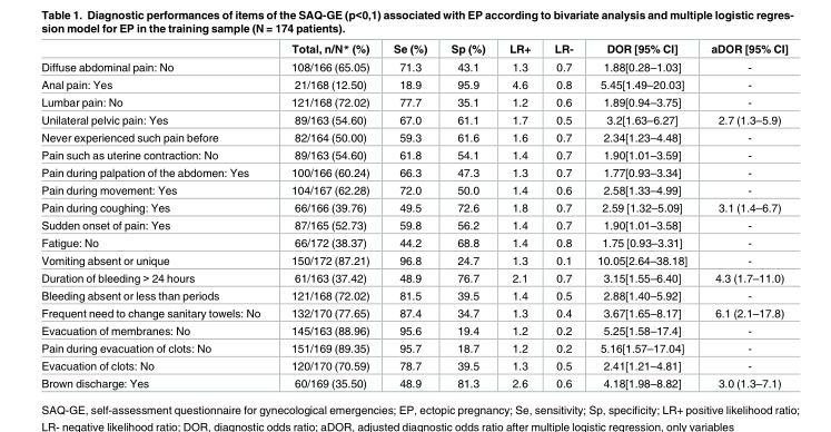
<table><thead><tr><td></td><td>Total, n/N* (%)</td><td>Se (%)</td><td>Sp (%)</td><td>LR+</td><td>LR-</td><td>DOR [95% CI]</td><td>aDOR [95% CI]</td></tr></thead><tbody><tr><td>Diffuse abdominal pain: No</td><td>108/166 (65.05)</td><td>71.3</td><td>43.1</td><td>1.3</td><td>0.7</td><td>1.88[0.28–1.03]</td><td>-</td></tr><tr><td>Anal pain: Yes</td><td>21/168 (12.50)</td><td>18.9</td><td>95.9</td><td>4.6</td><td>0.8</td><td>5.45[1.49–20.03]</td><td>-</td></tr><tr><td>Lumbar pain: No</td><td>121/168 (72.02)</td><td>77.7</td><td>35.1</td><td>1.2</td><td>0.6</td><td>1.89[0.94–3.75]</td><td>-</td></tr><tr><td>Unilateral pelvic pain: Yes</td><td>89/163 (54.60)</td><td>67.0</td><td>61.1</td><td>1.7</td><td>0.5</td><td>3.2[1.63–6.27]</td><td>2.7 (1.3–5.9)</td></tr><tr><td>Never experienced such pain before</td><td>82/164 (50.00)</td><td>59.3</td><td>61.6</td><td>1.6</td><td>0.7</td><td>2.34[1.23–4.48]</td><td>-</td></tr><tr><td>Pain such as uterine contraction: No</td><td>89/163 (54.60)</td><td>61.8</td><td>54.1</td><td>1.4</td><td>0.7</td><td>1.90[1.01–3.59]</td><td>-</td></tr><tr><td>Pain during palpation of the abdomen: Yes</td><td>100/166 (60.24)</td><td>66.3</td><td>47.3</td><td>1.3</td><td>0.7</td><td>1.77[0.93–3.34]</td><td>-</td></tr><tr><td>Pain during movement: Yes</td><td>104/167 (62.28)</td><td>72.0</td><td>50.0</td><td>1.4</td><td>0.6</td><td>2.58[1.33–4.99]</td><td>-</td></tr><tr><td>Pain during coughing: Yes</td><td>66/166 (39.76)</td><td>49.5</td><td>72.6</td><td>1.8</td><td>0.7</td><td>2.59 [1.32–5.09]</td><td>3.1 (1.4–6.7)</td></tr><tr><td>Sudden onset of pain: Yes</td><td>87/165 (52.73)</td><td>59.8</td><td>56.2</td><td>1.4</td><td>0.7</td><td>1.90[1.01–3.58]</td><td>-</td></tr><tr><td>Fatigue: No</td><td>66/172 (38.37)</td><td>44.2</td><td>68.8</td><td>1.4</td><td>0.8</td><td>1.75 [0.93–3.31]</td><td>-</td></tr><tr><td>Vomiting absent or unique</td><td>150/172 (87.21)</td><td>96.8</td><td>24.7</td><td>1.3</td><td>0.1</td><td>10.05[2.64–38.18]</td><td>-</td></tr><tr><td>Duration of bleeding &gt; 24 hours</td><td>61/163 (37.42)</td><td>48.9</td><td>76.7</td><td>2.1</td><td>0.7</td><td>3.15[1.55–6.40]</td><td>4.3 (1.7–11.0)</td></tr><tr><td>Bleeding absent or less than periods</td><td>121/168 (72.02)</td><td>81.5</td><td>39.5</td><td>1.4</td><td>0.5</td><td>2.88[1.40–5.92]</td><td>-</td></tr><tr><td>Frequent need to change sanitary towels: No</td><td>132/170 (77.65)</td><td>87.4</td><td>34.7</td><td>1.3</td><td>0.4</td><td>3.67[1.65–8.17]</td><td>6.1 (2.1–17.8)</td></tr><tr><td>Evacuation of membranes: No</td><td>145/163 (88.96)</td><td>95.6</td><td>19.4</td><td>1.2</td><td>0.2</td><td>5.25[1.58–17.4]</td><td>-</td></tr><tr><td>Pain during evacuation of clots: No</td><td>151/169 (89.35)</td><td>95.7</td><td>18.7</td><td>1.2</td><td>0.2</td><td>5.16[1.57–17.04]</td><td>-</td></tr><tr><td>Evacuation of clots: No</td><td>120/170 (70.59)</td><td>78.7</td><td>39.5</td><td>1.3</td><td>0.5</td><td>2.41[1.21–4.81]</td><td>-</td></tr><tr><td>Brown discharge: Yes</td><td>60/169 (35.50)</td><td>48.9</td><td>81.3</td><td>2.6</td><td>0.6</td><td>4.18[1.98–8.82]</td><td>3.0 (1.3–7.1)</td></tr></tbody></table>